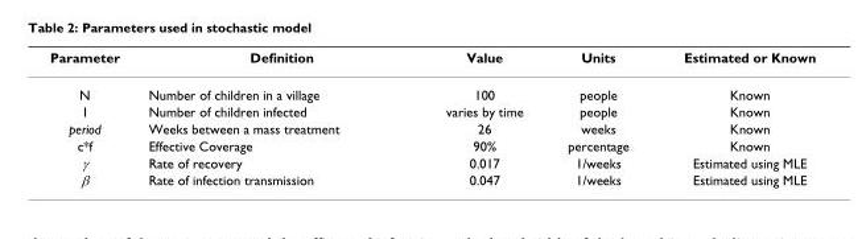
<table><thead><tr><td>Parameter</td><td>Definition</td><td>Value</td><td>Units</td><td>Estimated or Known</td></tr></thead><tbody><tr><td>N</td><td>Number of children in a village</td><td>100</td><td>people</td><td>Known</td></tr><tr><td>I</td><td>Number of children infected</td><td>varies by time</td><td>people</td><td>Known</td></tr><tr><td>period</td><td>Weeks between a mass treatment</td><td>26</td><td>weeks</td><td>Known</td></tr><tr><td>c*f</td><td>Effective Coverage</td><td>90%</td><td>percentage</td><td>Known</td></tr><tr><td>γ</td><td>Rate of recovery</td><td>0.017</td><td>1/weeks</td><td>Estimated using MLE</td></tr><tr><td>β</td><td>Rate of infection transmission</td><td>0.047</td><td>1/weeks</td><td>Estimated using MLE</td></tr></tbody></table>